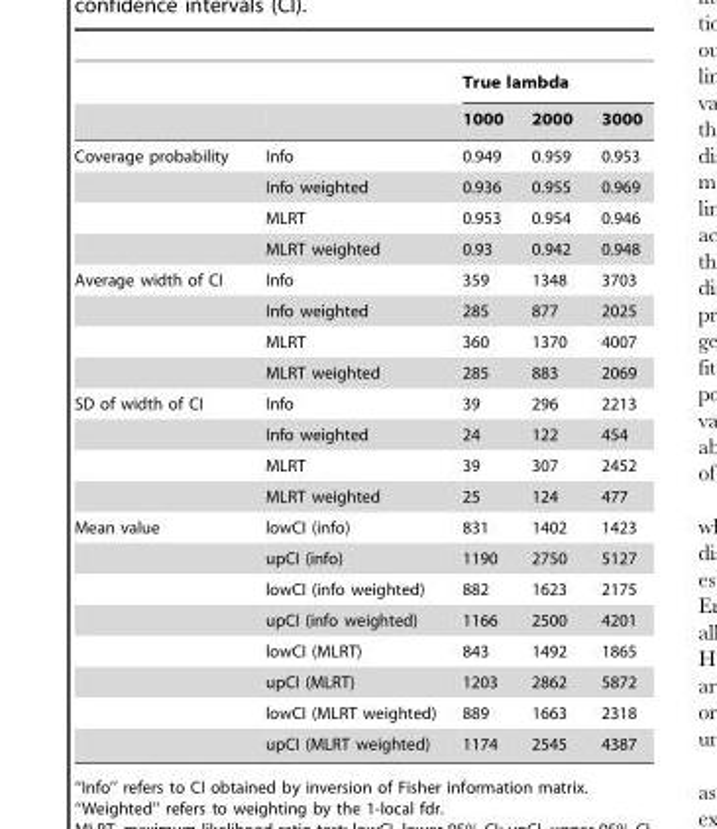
<table><thead><tr><td rowspan="2"></td><td rowspan="2"></td><td colspan="3">True lambda</td></tr><tr><td>1000</td><td>2000</td><td>3000</td></tr></thead><tbody><tr><td rowspan="4">Coverage probability</td><td>Info</td><td>0.949</td><td>0.959</td><td>0.953</td></tr><tr><td>Info weighted</td><td>0.936</td><td>0.955</td><td>0.969</td></tr><tr><td>MLRT</td><td>0.953</td><td>0.954</td><td>0.946</td></tr><tr><td>MLRT weighted</td><td>0.93</td><td>0.942</td><td>0.948</td></tr><tr><td rowspan="4">Average width of CI</td><td>Info</td><td>359</td><td>1348</td><td>3703</td></tr><tr><td>Info weighted</td><td>285</td><td>877</td><td>2025</td></tr><tr><td>MLRT</td><td>360</td><td>1370</td><td>4007</td></tr><tr><td>MLRT weighted</td><td>285</td><td>883</td><td>2069</td></tr><tr><td rowspan="4">SD of width of CI</td><td>Info</td><td>39</td><td>296</td><td>2213</td></tr><tr><td>Info weighted</td><td>24</td><td>122</td><td>454</td></tr><tr><td>MLRT</td><td>39</td><td>307</td><td>2452</td></tr><tr><td>MLRT weighted</td><td>25</td><td>124</td><td>477</td></tr><tr><td rowspan="8">Mean value</td><td>lowCI (info)</td><td>831</td><td>1402</td><td>1423</td></tr><tr><td>upCI (info)</td><td>1190</td><td>2750</td><td>5127</td></tr><tr><td>lowCI (info weighted)</td><td>882</td><td>1623</td><td>2175</td></tr><tr><td>upCI (info weighted)</td><td>1166</td><td>2500</td><td>4201</td></tr><tr><td>lowCI (MLRT)</td><td>843</td><td>1492</td><td>1865</td></tr><tr><td>upCI (MLRT)</td><td>1203</td><td>2862</td><td>5872</td></tr><tr><td>lowCI (MLRT weighted)</td><td>889</td><td>1663</td><td>2318</td></tr><tr><td>upCI (MLRT weighted)</td><td>1174</td><td>2545</td><td>4387</td></tr></tbody></table>